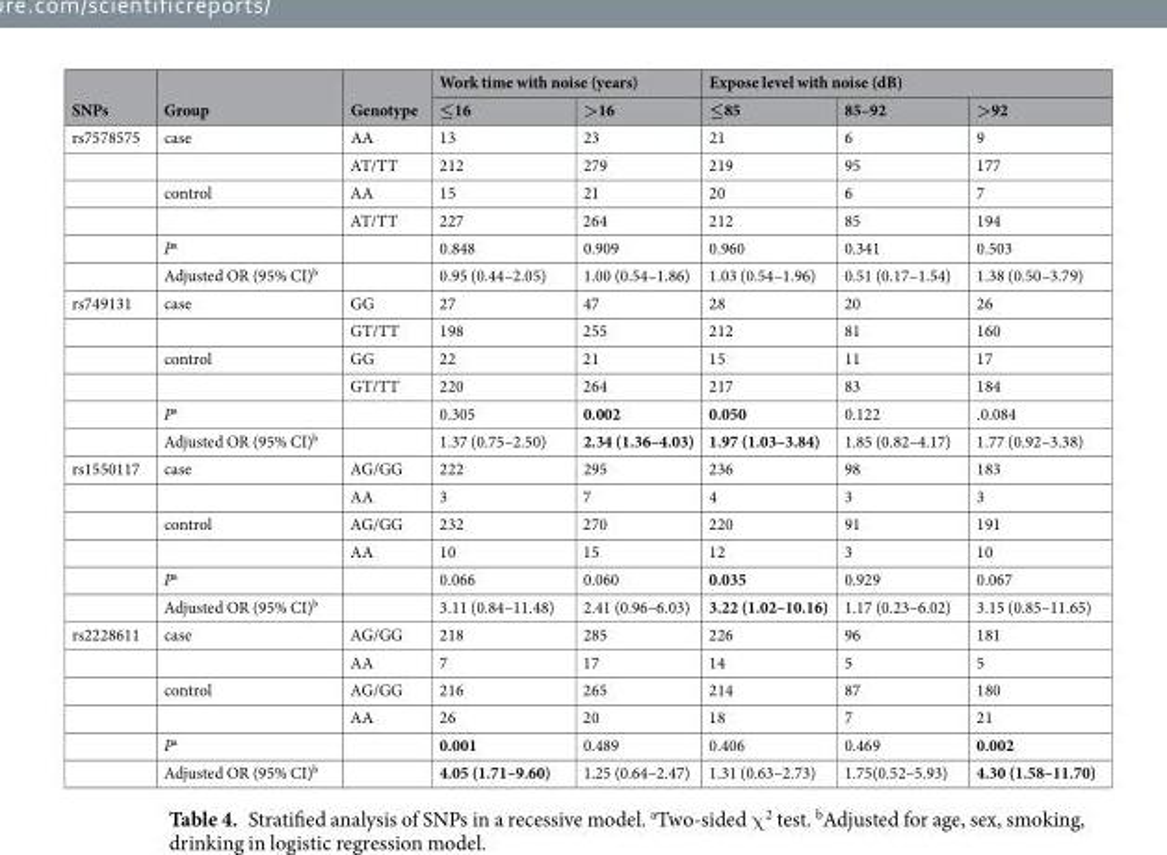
<table><thead><tr><td rowspan="2">SNPs</td><td rowspan="2">Group</td><td rowspan="2">Genotype</td><td colspan="2">Work time with noise (years)</td><td colspan="3">Expose level with noise (dB)</td></tr><tr><td>≤16</td><td>&gt;16</td><td>≤85</td><td>85–92</td><td>&gt;92</td></tr></thead><tbody><tr><td rowspan="6">rs7578575</td><td>case</td><td>AA</td><td>13</td><td>23</td><td>21</td><td>6</td><td>9</td></tr><tr><td></td><td>AT/TT</td><td>212</td><td>279</td><td>219</td><td>95</td><td>177</td></tr><tr><td>control</td><td>AA</td><td>15</td><td>21</td><td>20</td><td>6</td><td>7</td></tr><tr><td></td><td>AT/TT</td><td>227</td><td>264</td><td>212</td><td>85</td><td>194</td></tr><tr><td>P<sup>a</sup></td><td></td><td>0.848</td><td>0.909</td><td>0.960</td><td>0.341</td><td>0.503</td></tr><tr><td>Adjusted OR (95% CI)<sup>b</sup></td><td></td><td>0.95 (0.44–2.05)</td><td>1.00 (0.54–1.86)</td><td>1.03 (0.54–1.96)</td><td>0.51 (0.17–1.54)</td><td>1.38 (0.50–3.79)</td></tr><tr><td rowspan="6">rs749131</td><td>case</td><td>GG</td><td>27</td><td>47</td><td>28</td><td>20</td><td>26</td></tr><tr><td></td><td>GT/TT</td><td>198</td><td>255</td><td>212</td><td>81</td><td>160</td></tr><tr><td>control</td><td>GG</td><td>22</td><td>21</td><td>15</td><td>11</td><td>17</td></tr><tr><td></td><td>GT/TT</td><td>220</td><td>264</td><td>217</td><td>83</td><td>184</td></tr><tr><td>P<sup>a</sup></td><td></td><td>0.305</td><td>0.002</td><td>0.050</td><td>0.122</td><td>.0.084</td></tr><tr><td>Adjusted OR (95% CI)<sup>b</sup></td><td></td><td>1.37 (0.75–2.50)</td><td>2.34 (1.36–4.03)</td><td>1.97 (1.03–3.84)</td><td>1.85 (0.82–4.17)</td><td>1.77 (0.92–3.38)</td></tr><tr><td rowspan="6">rs1550117</td><td>case</td><td>AG/GG</td><td>222</td><td>295</td><td>236</td><td>98</td><td>183</td></tr><tr><td></td><td>AA</td><td>3</td><td>7</td><td>4</td><td>3</td><td>3</td></tr><tr><td>control</td><td>AG/GG</td><td>232</td><td>270</td><td>220</td><td>91</td><td>191</td></tr><tr><td></td><td>AA</td><td>10</td><td>15</td><td>12</td><td>3</td><td>10</td></tr><tr><td>P<sup>a</sup></td><td></td><td>0.066</td><td>0.060</td><td>0.035</td><td>0.929</td><td>0.067</td></tr><tr><td>Adjusted OR (95% CI)<sup>b</sup></td><td></td><td>3.11 (0.84–11.48)</td><td>2.41 (0.96–6.03)</td><td>3.22 (1.02–10.16)</td><td>1.17 (0.23–6.02)</td><td>3.15 (0.85–11.65)</td></tr><tr><td rowspan="6">rs2228611</td><td>case</td><td>AG/GG</td><td>218</td><td>285</td><td>226</td><td>96</td><td>181</td></tr><tr><td></td><td>AA</td><td>7</td><td>17</td><td>14</td><td>5</td><td>5</td></tr><tr><td>control</td><td>AG/GG</td><td>216</td><td>265</td><td>214</td><td>87</td><td>180</td></tr><tr><td></td><td>AA</td><td>26</td><td>20</td><td>18</td><td>7</td><td>21</td></tr><tr><td>P<sup>a</sup></td><td></td><td>0.001</td><td>0.489</td><td>0.406</td><td>0.469</td><td>0.002</td></tr><tr><td>Adjusted OR (95% CI)<sup>b</sup></td><td></td><td>4.05 (1.71–9.60)</td><td>1.25 (0.64–2.47)</td><td>1.31 (0.63–2.73)</td><td>1.75(0.52–5.93)</td><td>4.30 (1.58–11.70)</td></tr></tbody></table>